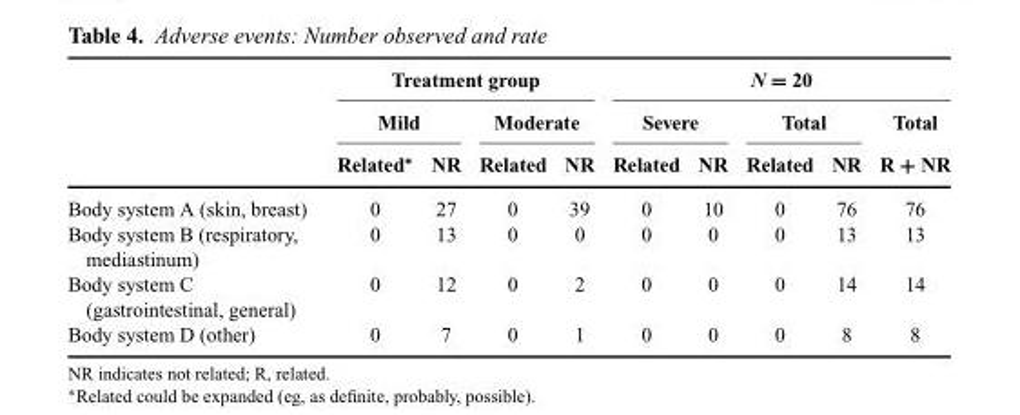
<table><thead><tr><td rowspan="3"></td><td colspan="4">Treatment group</td><td colspan="5">N = 20</td></tr><tr><td colspan="2">Mild</td><td colspan="2">Moderate</td><td colspan="2">Severe</td><td colspan="2">Total</td><td rowspan="2">Total R + NR</td></tr><tr><td>Related∗</td><td>NR</td><td>Related</td><td>NR</td><td>Related</td><td>NR</td><td>Related</td><td>NR</td></tr></thead><tbody><tr><td>Body system A (skin, breast)</td><td>0</td><td>27</td><td>0</td><td>39</td><td>0</td><td>10</td><td>0</td><td>76</td><td>76</td></tr><tr><td>Body system B (respiratory, mediastinum)</td><td>0</td><td>13</td><td>0</td><td>0</td><td>0</td><td>0</td><td>0</td><td>13</td><td>13</td></tr><tr><td>Body system C (gastrointestinal, general)</td><td>0</td><td>12</td><td>0</td><td>2</td><td>0</td><td>0</td><td>0</td><td>14</td><td>14</td></tr><tr><td>Body system D (other)</td><td>0</td><td>7</td><td>0</td><td>1</td><td>0</td><td>0</td><td>0</td><td>8</td><td>8</td></tr></tbody></table>